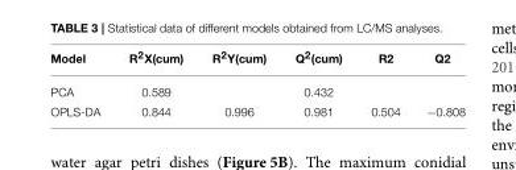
<table><thead><tr><td>Model</td><td>R<sup>2</sup>X(cum)</td><td>R<sup>2</sup>Y(cum)</td><td>Q<sup>2</sup>(cum)</td><td>R2</td><td>Q2</td></tr></thead><tbody><tr><td>PCA</td><td>0.589</td><td></td><td>0.432</td><td></td><td></td></tr><tr><td>OPLS-DA</td><td>0.844</td><td>0.996</td><td>0.981</td><td>0.504</td><td>−0.808</td></tr></tbody></table>